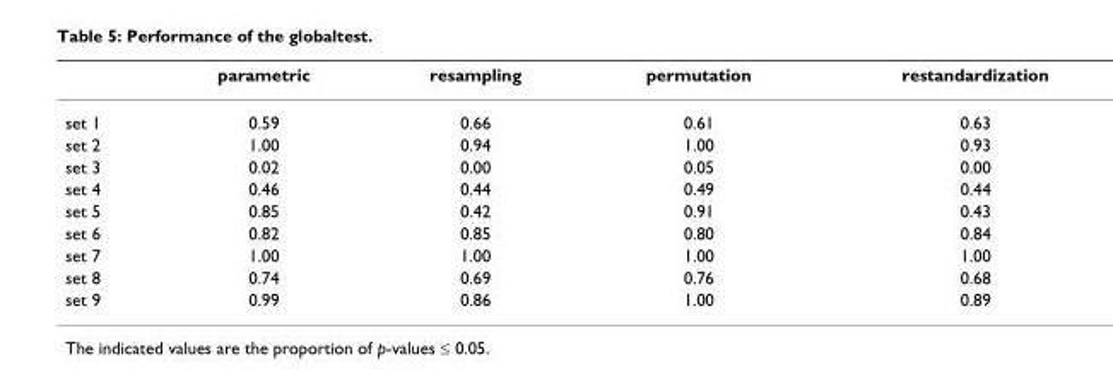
<table><thead><tr><td></td><td>parametric</td><td>resampling</td><td>permutation</td><td>restandardization</td></tr></thead><tbody><tr><td>set 1</td><td>0.59</td><td>0.66</td><td>0.61</td><td>0.63</td></tr><tr><td>set 2</td><td>1.00</td><td>0.94</td><td>1.00</td><td>0.93</td></tr><tr><td>set 3</td><td>0.02</td><td>0.00</td><td>0.05</td><td>0.00</td></tr><tr><td>set 4</td><td>0.46</td><td>0.44</td><td>0.49</td><td>0.44</td></tr><tr><td>set 5</td><td>0.85</td><td>0.42</td><td>0.91</td><td>0.43</td></tr><tr><td>set 6</td><td>0.82</td><td>0.85</td><td>0.80</td><td>0.84</td></tr><tr><td>set 7</td><td>1.00</td><td>1.00</td><td>1.00</td><td>1.00</td></tr><tr><td>set 8</td><td>0.74</td><td>0.69</td><td>0.76</td><td>0.68</td></tr><tr><td>set 9</td><td>0.99</td><td>0.86</td><td>1.00</td><td>0.89</td></tr></tbody></table>